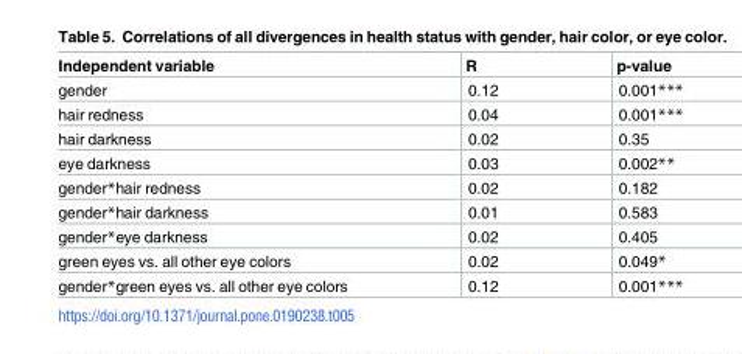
<table><thead><tr><td>Independent variable</td><td>R</td><td>p-value</td></tr></thead><tbody><tr><td>gender</td><td>0.12</td><td>0.001***</td></tr><tr><td>hair redness</td><td>0.04</td><td>0.001***</td></tr><tr><td>hair darkness</td><td>0.02</td><td>0.35</td></tr><tr><td>eye darkness</td><td>0.03</td><td>0.002**</td></tr><tr><td>gender*hair redness</td><td>0.02</td><td>0.182</td></tr><tr><td>gender*hair darkness</td><td>0.01</td><td>0.583</td></tr><tr><td>gender*eye darkness</td><td>0.02</td><td>0.405</td></tr><tr><td>green eyes vs. all other eye colors</td><td>0.02</td><td>0.049*</td></tr><tr><td>gender*green eyes vs. all other eye colors</td><td>0.12</td><td>0.001***</td></tr></tbody></table>